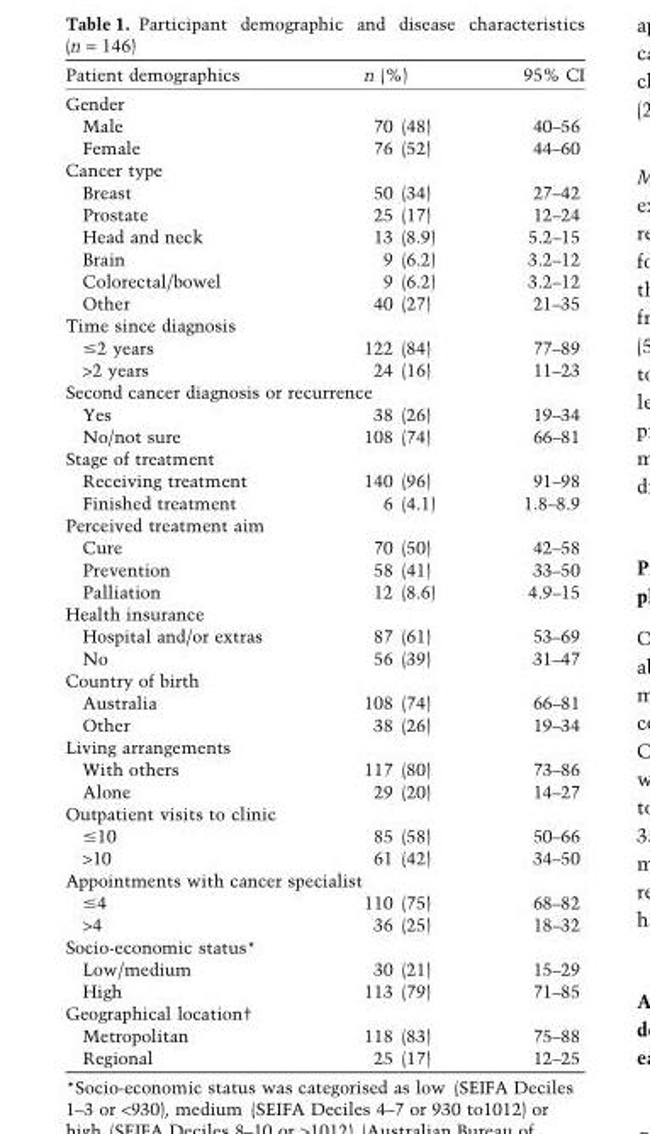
<table><thead><tr><td>Patient demographics</td><td>n (%)</td><td>95% CI</td></tr></thead><tbody><tr><td colspan="3">Gender</td></tr><tr><td>Male</td><td>70 (48)</td><td>40–56</td></tr><tr><td>Female</td><td>76 (52)</td><td>44–60</td></tr><tr><td colspan="3">Cancer type</td></tr><tr><td>Breast</td><td>50 (34)</td><td>27–42</td></tr><tr><td>Prostate</td><td>25 (17)</td><td>12–24</td></tr><tr><td>Head and neck</td><td>13 (8.9)</td><td>5.2–15</td></tr><tr><td>Brain</td><td>9 (6.2)</td><td>3.2–12</td></tr><tr><td>Colorectal/bowel</td><td>9 (6.2)</td><td>3.2–12</td></tr><tr><td>Other</td><td>40 (27)</td><td>21–35</td></tr><tr><td colspan="3">Time since diagnosis</td></tr><tr><td>≤2 years</td><td>122 (84)</td><td>77–89</td></tr><tr><td>&gt;2 years</td><td>24 (16)</td><td>11–23</td></tr><tr><td colspan="3">Second cancer diagnosis or recurrence</td></tr><tr><td>Yes</td><td>38 (26)</td><td>19–34</td></tr><tr><td>No/not sure</td><td>108 (74)</td><td>66–81</td></tr><tr><td colspan="3">Stage of treatment</td></tr><tr><td>Receiving treatment</td><td>140 (96)</td><td>91–98</td></tr><tr><td>Finished treatment</td><td>6 (4.1)</td><td>1.8–8.9</td></tr><tr><td colspan="3">Perceived treatment aim</td></tr><tr><td>Cure</td><td>70 (50)</td><td>42–58</td></tr><tr><td>Prevention</td><td>58 (41)</td><td>33–50</td></tr><tr><td>Palliation</td><td>12 (8.6)</td><td>4.9–15</td></tr><tr><td colspan="3">Health insurance</td></tr><tr><td>Hospital and/or extras</td><td>87 (61)</td><td>53–69</td></tr><tr><td>No</td><td>56 (39)</td><td>31–47</td></tr><tr><td colspan="3">Country of birth</td></tr><tr><td>Australia</td><td>108 (74)</td><td>66–81</td></tr><tr><td>Other</td><td>38 (26)</td><td>19–34</td></tr><tr><td colspan="3">Living arrangements</td></tr><tr><td>With others</td><td>117 (80)</td><td>73–86</td></tr><tr><td>Alone</td><td>29 (20)</td><td>14–27</td></tr><tr><td colspan="3">Outpatient visits to clinic</td></tr><tr><td>≤10</td><td>85 (58)</td><td>50–66</td></tr><tr><td>&gt;10</td><td>61 (42)</td><td>34–50</td></tr><tr><td colspan="3">Appointments with cancer specialist</td></tr><tr><td>≤4</td><td>110 (75)</td><td>68–82</td></tr><tr><td>&gt;4</td><td>36 (25)</td><td>18–32</td></tr><tr><td colspan="3">Socio-economic status*</td></tr><tr><td>Low/medium</td><td>30 (21)</td><td>15–29</td></tr><tr><td>High</td><td>113 (79)</td><td>71–85</td></tr><tr><td colspan="3">Geographical location†</td></tr><tr><td>Metropolitan</td><td>118 (83)</td><td>75–88</td></tr><tr><td>Regional</td><td>25 (17)</td><td>12–25</td></tr></tbody></table>